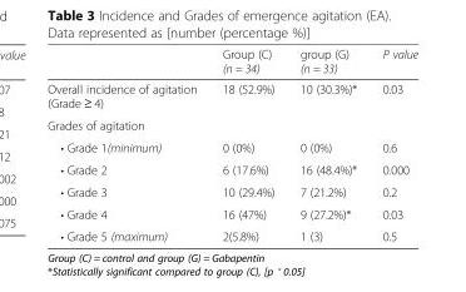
<table><thead><tr><td></td><td>Group (C) (n = 34)</td><td>group (G) (n = 33)</td><td>P value</td></tr></thead><tbody><tr><td>Overall incidence of agitation (Grade ≥ 4)</td><td>18 (52.9%)</td><td>10 (30.3%)*</td><td>0.03</td></tr><tr><td colspan="4">Grades of agitation</td></tr><tr><td>• Grade 1(minimum)</td><td>0 (0%)</td><td>0 (0%)</td><td>0.6</td></tr><tr><td>• Grade 2</td><td>6 (17.6%)</td><td>16 (48.4%)*</td><td>0.000</td></tr><tr><td>• Grade 3</td><td>10 (29.4%)</td><td>7 (21.2%)</td><td>0.2</td></tr><tr><td>• Grade 4</td><td>16 (47%)</td><td>9 (27.2%)*</td><td>0.03</td></tr><tr><td>• Grade 5 (maximum)</td><td>2(5.8%)</td><td>1 (3)</td><td>0.5</td></tr></tbody></table>